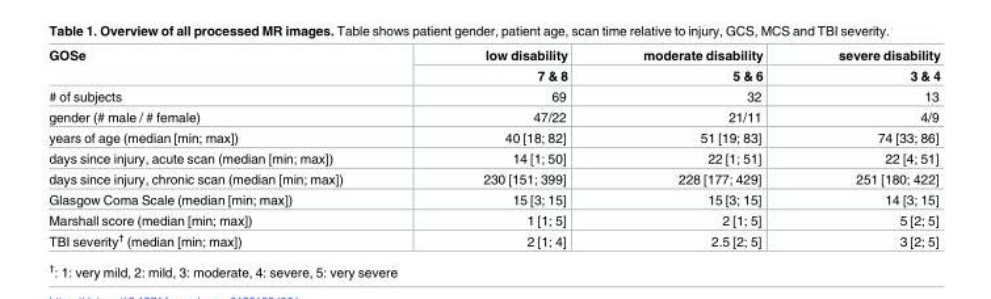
<table><thead><tr><td rowspan="2">GOSe</td><td rowspan="2">low disability 7 &amp; 8</td><td rowspan="2">moderate disability 5 &amp; 6</td><td rowspan="2">severe disability 3 &amp; 4</td></tr><tr></tr></thead><tbody><tr><td># of subjects</td><td>69</td><td>32</td><td>13</td></tr><tr><td>gender (# male / # female)</td><td>47/22</td><td>21/11</td><td>4/9</td></tr><tr><td>years of age (median [min; max])</td><td>40 [18; 82]</td><td>51 [19; 83]</td><td>74 [33; 86]</td></tr><tr><td>days since injury, acute scan (median [min; max])</td><td>14 [1; 50]</td><td>22 [1; 51]</td><td>22 [4; 51]</td></tr><tr><td>days since injury, chronic scan (median [min; max])</td><td>230 [151; 399]</td><td>228 [177; 429]</td><td>251 [180; 422]</td></tr><tr><td>Glasgow Coma Scale (median [min; max])</td><td>15 [3; 15]</td><td>15 [3; 15]</td><td>14 [3; 15]</td></tr><tr><td>Marshall score (median [min; max])</td><td>1 [1; 5]</td><td>2 [1; 5]</td><td>5 [2; 5]</td></tr><tr><td>TBI severity<sup>†</sup> (median [min; max])</td><td>2 [1; 4]</td><td>2.5 [2; 5]</td><td>3 [2; 5]</td></tr></tbody></table>